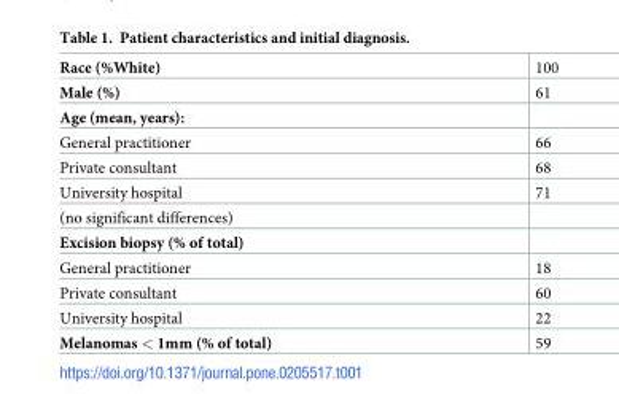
<table><tbody><tr><td>Race (%White)</td><td>100</td></tr><tr><td>Male (%)</td><td>61</td></tr><tr><td colspan="2">Age (mean, years):</td></tr><tr><td>General practitioner</td><td>66</td></tr><tr><td>Private consultant</td><td>68</td></tr><tr><td>University hospital</td><td>71</td></tr><tr><td colspan="2">(no significant differences)</td></tr><tr><td colspan="2">Excision biopsy (% of total)</td></tr><tr><td>General practitioner</td><td>18</td></tr><tr><td>Private consultant</td><td>60</td></tr><tr><td>University hospital</td><td>22</td></tr><tr><td>Melanomas &lt; 1mm (% of total)</td><td>59</td></tr></tbody></table>